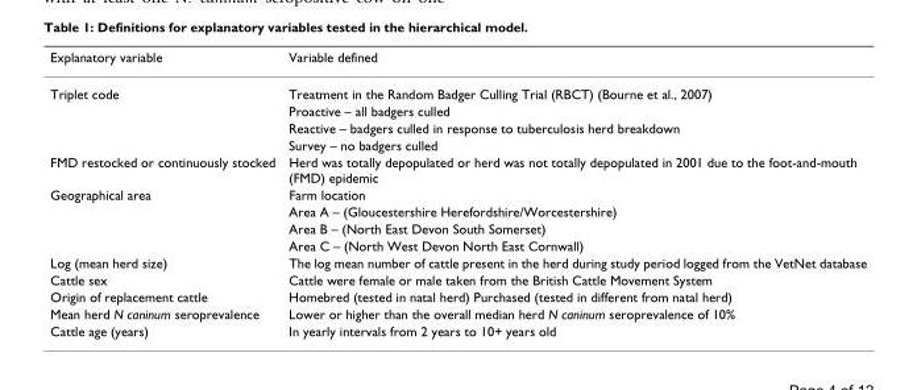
<table><thead><tr><td>Explanatory variable</td><td>Variable defined</td></tr></thead><tbody><tr><td rowspan="4">Triplet code</td><td>Treatment in the Random Badger Culling Trial (RBCT) (Bourne et al., 2007)</td></tr><tr><td>Proactive – all badgers culled</td></tr><tr><td>Reactive – badgers culled in response to tuberculosis herd breakdown</td></tr><tr><td>Survey – no badgers culled</td></tr><tr><td>FMD restocked or continuously stocked</td><td>Herd was totally depopulated or herd was not totally depopulated in 2001 due to the foot-and-mouth (FMD) epidemic</td></tr><tr><td rowspan="4">Geographical area</td><td>Farm location</td></tr><tr><td>Area A – (Gloucestershire Herefordshire/Worcestershire)</td></tr><tr><td>Area B – (North East Devon South Somerset)</td></tr><tr><td>Area C – (North West Devon North East Cornwall)</td></tr><tr><td>Log (mean herd size)</td><td>The log mean number of cattle present in the herd during study period logged from the VetNet database</td></tr><tr><td>Cattle sex</td><td>Cattle were female or male taken from the British Cattle Movement System</td></tr><tr><td>Origin of replacement cattle</td><td>Homebred (tested in natal herd) Purchased (tested in different from natal herd)</td></tr><tr><td>Mean herd N caninum seroprevalence</td><td>Lower or higher than the overall median herd N caninum seroprevalence of 10%</td></tr><tr><td>Cattle age (years)</td><td>In yearly intervals from 2 years to 10+ years old</td></tr></tbody></table>